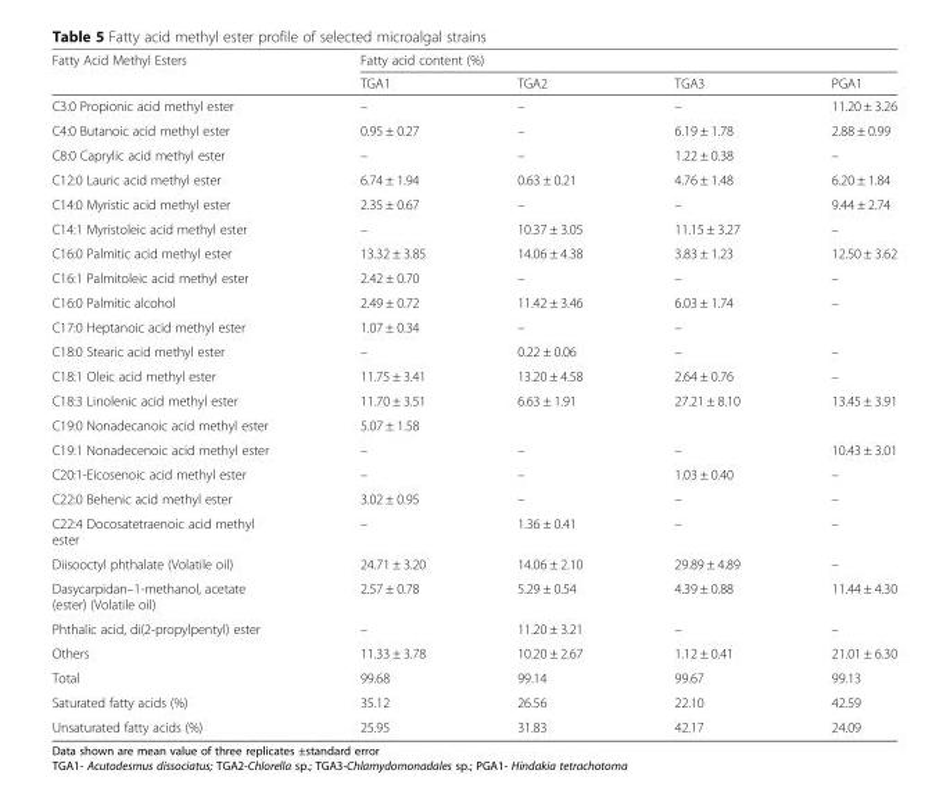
<table><thead><tr><td rowspan="2">Fatty Acid Methyl Esters</td><td colspan="4">Fatty acid content (%)</td></tr><tr><td>TGA1</td><td>TGA2</td><td>TGA3</td><td>PGA1</td></tr></thead><tbody><tr><td>C3:0 Propionic acid methyl ester</td><td>–</td><td>–</td><td>–</td><td>11.20 ± 3.26</td></tr><tr><td>C4:0 Butanoic acid methyl ester</td><td>0.95 ± 0.27</td><td>–</td><td>6.19 ± 1.78</td><td>2.88 ± 0.99</td></tr><tr><td>C8:0 Caprylic acid methyl ester</td><td>–</td><td>–</td><td>1.22 ± 0.38</td><td>–</td></tr><tr><td>C12:0 Lauric acid methyl ester</td><td>6.74 ± 1.94</td><td>0.63 ± 0.21</td><td>4.76 ± 1.48</td><td>6.20 ± 1.84</td></tr><tr><td>C14:0 Myristic acid methyl ester</td><td>2.35 ± 0.67</td><td>–</td><td>–</td><td>9.44 ± 2.74</td></tr><tr><td>C14:1 Myristoleic acid methyl ester</td><td>–</td><td>10.37 ± 3.05</td><td>11.15 ± 3.27</td><td>–</td></tr><tr><td>C16:0 Palmitic acid methyl ester</td><td>13.32 ± 3.85</td><td>14.06 ± 4.38</td><td>3.83 ± 1.23</td><td>12.50 ± 3.62</td></tr><tr><td>C16:1 Palmitoleic acid methyl ester</td><td>2.42 ± 0.70</td><td>–</td><td>–</td><td>–</td></tr><tr><td>C16:0 Palmitic alcohol</td><td>2.49 ± 0.72</td><td>11.42 ± 3.46</td><td>6.03 ± 1.74</td><td>–</td></tr><tr><td>C17:0 Heptanoic acid methyl ester</td><td>1.07 ± 0.34</td><td>–</td><td>–</td><td></td></tr><tr><td>C18:0 Stearic acid methyl ester</td><td>–</td><td>0.22 ± 0.06</td><td>–</td><td>–</td></tr><tr><td>C18:1 Oleic acid methyl ester</td><td>11.75 ± 3.41</td><td>13.20 ± 4.58</td><td>2.64 ± 0.76</td><td>–</td></tr><tr><td>C18:3 Linolenic acid methyl ester</td><td>11.70 ± 3.51</td><td>6.63 ± 1.91</td><td>27.21 ± 8.10</td><td>13.45 ± 3.91</td></tr><tr><td>C19:0 Nonadecanoic acid methyl ester</td><td>5.07 ± 1.58</td><td></td><td></td><td></td></tr><tr><td>C19:1 Nonadecenoic acid methyl ester</td><td>–</td><td>–</td><td>–</td><td>10.43 ± 3.01</td></tr><tr><td>C20:1-Eicosenoic acid methyl ester</td><td>–</td><td>–</td><td>1.03 ± 0.40</td><td>–</td></tr><tr><td>C22:0 Behenic acid methyl ester</td><td>3.02 ± 0.95</td><td>–</td><td>–</td><td>–</td></tr><tr><td>C22:4 Docosatetraenoic acid methyl ester</td><td>–</td><td>1.36 ± 0.41</td><td>–</td><td>–</td></tr><tr><td>Diisooctyl phthalate (Volatile oil)</td><td>24.71 ± 3.20</td><td>14.06 ± 2.10</td><td>29.89 ± 4.89</td><td>–</td></tr><tr><td>Dasycarpidan–1-methanol, acetate (ester) (Volatile oil)</td><td>2.57 ± 0.78</td><td>5.29 ± 0.54</td><td>4.39 ± 0.88</td><td>11.44 ± 4.30</td></tr><tr><td>Phthalic acid, di(2-propylpentyl) ester</td><td>–</td><td>11.20 ± 3.21</td><td>–</td><td>–</td></tr><tr><td>Others</td><td>11.33 ± 3.78</td><td>10.20 ± 2.67</td><td>1.12 ± 0.41</td><td>21.01 ± 6.30</td></tr><tr><td>Total</td><td>99.68</td><td>99.14</td><td>99.67</td><td>99.13</td></tr><tr><td>Saturated fatty acids (%)</td><td>35.12</td><td>26.56</td><td>22.10</td><td>42.59</td></tr><tr><td>Unsaturated fatty acids (%)</td><td>25.95</td><td>31.83</td><td>42.17</td><td>24.09</td></tr></tbody></table>